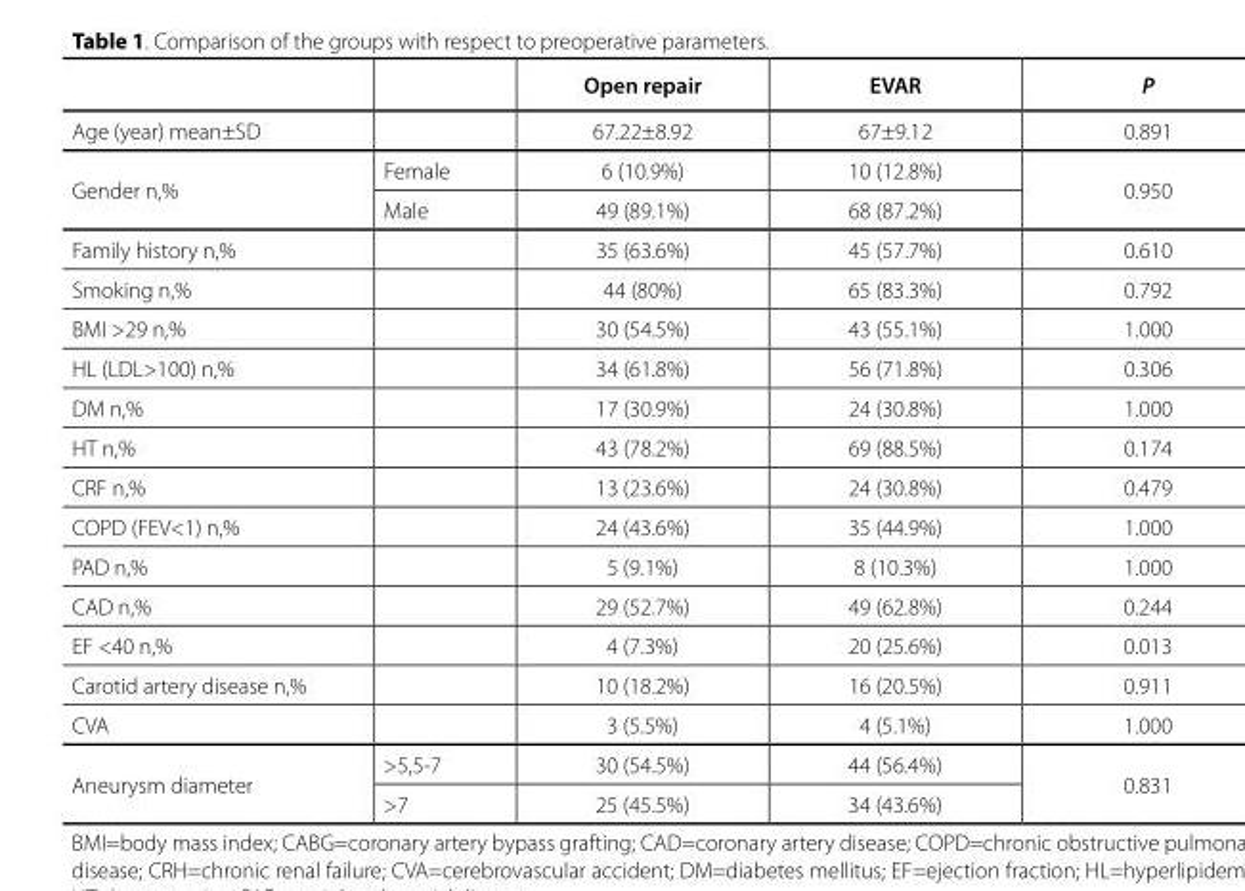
<table><thead><tr><td></td><td></td><td>Open repair</td><td>EVAR</td><td>P</td></tr></thead><tbody><tr><td>Age (year) mean±SD</td><td></td><td>67.22±8.92</td><td>67±9.12</td><td>0.891</td></tr><tr><td rowspan="2">Gender n,%</td><td>Female</td><td>6 (10.9%)</td><td>10 (12.8%)</td><td rowspan="2">0.950</td></tr><tr><td>Male</td><td>49 (89.1%)</td><td>68 (87.2%)</td></tr><tr><td>Family history n,%</td><td></td><td>35 (63.6%)</td><td>45 (57.7%)</td><td>0.610</td></tr><tr><td>Smoking n,%</td><td></td><td>44 (80%)</td><td>65 (83.3%)</td><td>0.792</td></tr><tr><td>BMI &gt;29 n,%</td><td></td><td>30 (54.5%)</td><td>43 (55.1%)</td><td>1.000</td></tr><tr><td>HL (LDL&gt;100) n,%</td><td></td><td>34 (61.8%)</td><td>56 (71.8%)</td><td>0.306</td></tr><tr><td>DM n,%</td><td></td><td>17 (30.9%)</td><td>24 (30.8%)</td><td>1.000</td></tr><tr><td>HT n,%</td><td></td><td>43 (78.2%)</td><td>69 (88.5%)</td><td>0.174</td></tr><tr><td>CRF n,%</td><td></td><td>13 (23.6%)</td><td>24 (30.8%)</td><td>0.479</td></tr><tr><td>COPD (FEV&lt;1) n,%</td><td></td><td>24 (43.6%)</td><td>35 (44.9%)</td><td>1.000</td></tr><tr><td>PAD n,%</td><td></td><td>5 (9.1%)</td><td>8 (10.3%)</td><td>1.000</td></tr><tr><td>CAD n,%</td><td></td><td>29 (52.7%)</td><td>49 (62.8%)</td><td>0.244</td></tr><tr><td>EF &lt;40 n,%</td><td></td><td>4 (7.3%)</td><td>20 (25.6%)</td><td>0.013</td></tr><tr><td>Carotid artery disease n,%</td><td></td><td>10 (18.2%)</td><td>16 (20.5%)</td><td>0.911</td></tr><tr><td>CVA</td><td></td><td>3 (5.5%)</td><td>4 (5.1%)</td><td>1.000</td></tr><tr><td rowspan="2">Aneurysm diameter</td><td>&gt;5,5-7</td><td>30 (54.5%)</td><td>44 (56.4%)</td><td rowspan="2">0.831</td></tr><tr><td>&gt;7</td><td>25 (45.5%)</td><td>34 (43.6%)</td></tr></tbody></table>